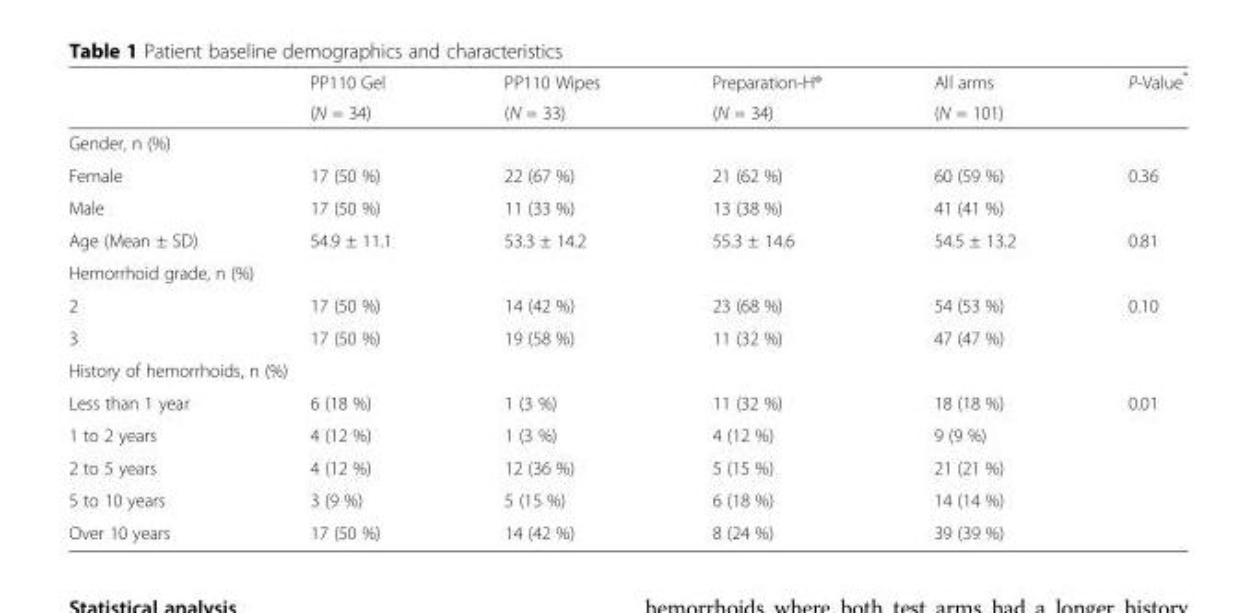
<table><thead><tr><td rowspan="2"></td><td rowspan="2">PP110 Gel (N = 34)</td><td rowspan="2">PP110 Wipes (N = 33)</td><td rowspan="2">Preparation-H® (N = 34)</td><td rowspan="2">All arms (N = 101)</td><td rowspan="2">P-Value*</td></tr><tr></tr></thead><tbody><tr><td colspan="6">Gender, n (%)</td></tr><tr><td>Female</td><td>17 (50 %)</td><td>22 (67 %)</td><td>21 (62 %)</td><td>60 (59 %)</td><td>0.36</td></tr><tr><td>Male</td><td>17 (50 %)</td><td>11 (33 %)</td><td>13 (38 %)</td><td>41 (41 %)</td><td></td></tr><tr><td>Age (Mean ± SD)</td><td>54.9 ± 11.1</td><td>53.3 ± 14.2</td><td>55.3 ± 14.6</td><td>54.5 ± 13.2</td><td>0.81</td></tr><tr><td colspan="6">Hemorrhoid grade, n (%)</td></tr><tr><td>2</td><td>17 (50 %)</td><td>14 (42 %)</td><td>23 (68 %)</td><td>54 (53 %)</td><td>0.10</td></tr><tr><td>3</td><td>17 (50 %)</td><td>19 (58 %)</td><td>11 (32 %)</td><td>47 (47 %)</td><td></td></tr><tr><td colspan="6">History of hemorrhoids, n (%)</td></tr><tr><td>Less than 1 year</td><td>6 (18 %)</td><td>1 (3 %)</td><td>11 (32 %)</td><td>18 (18 %)</td><td>0.01</td></tr><tr><td>1 to 2 years</td><td>4 (12 %)</td><td>1 (3 %)</td><td>4 (12 %)</td><td>9 (9 %)</td><td></td></tr><tr><td>2 to 5 years</td><td>4 (12 %)</td><td>12 (36 %)</td><td>5 (15 %)</td><td>21 (21 %)</td><td></td></tr><tr><td>5 to 10 years</td><td>3 (9 %)</td><td>5 (15 %)</td><td>6 (18 %)</td><td>14 (14 %)</td><td></td></tr><tr><td>Over 10 years</td><td>17 (50 %)</td><td>14 (42 %)</td><td>8 (24 %)</td><td>39 (39 %)</td><td></td></tr></tbody></table>